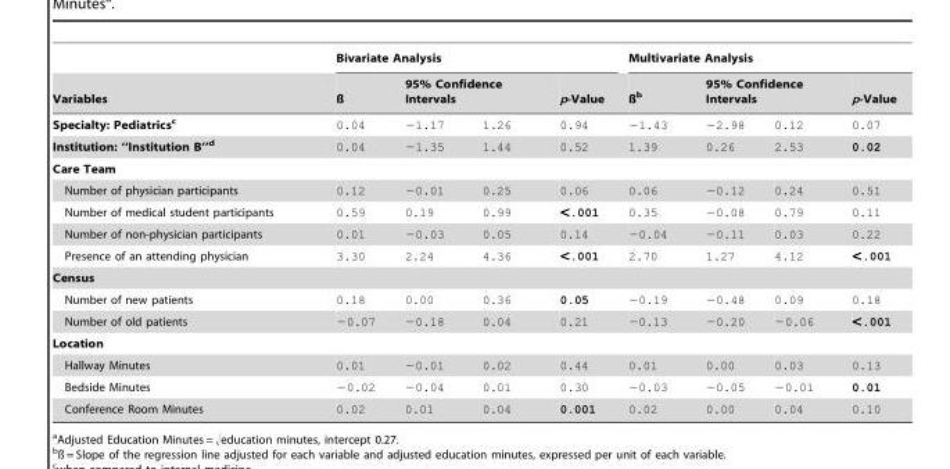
<table><thead><tr><td rowspan="3">Variables Specialty: Pediatricsc</td><td colspan="4">Bivariate Analysis</td><td colspan="4">Multivariate Analysis</td></tr><tr><td rowspan="2">ß 0.04</td><td colspan="2">95% Confidence Intervals</td><td rowspan="2">p-Value 0.94</td><td rowspan="2">ß<sup>b</sup> −1.43</td><td colspan="2">95% Confidence Intervals</td><td rowspan="2">p-Value 0.07</td></tr><tr><td>−1.17</td><td>1.26</td><td>−2.98</td><td>0.12</td></tr></thead><tbody><tr><td>Institution: ‘‘Institution B’’d</td><td>0.04</td><td>−1.35</td><td>1.44</td><td>0.52</td><td>1.39</td><td>0.26</td><td>2.53</td><td>0.02</td></tr><tr><td colspan="9">Care Team</td></tr><tr><td>Number of physician participants</td><td>0.12</td><td>−0.01</td><td>0.25</td><td>0.06</td><td>0.06</td><td>−0.12</td><td>0.24</td><td>0.51</td></tr><tr><td>Number of medical student participants</td><td>0.59</td><td>0.19</td><td>0.99</td><td>&lt;.001</td><td>0.35</td><td>−0.08</td><td>0.79</td><td>0.11</td></tr><tr><td>Number of non-physician participants</td><td>0.01</td><td>−0.03</td><td>0.05</td><td>0.14</td><td>−0.04</td><td>−0.11</td><td>0.03</td><td>0.22</td></tr><tr><td>Presence of an attending physician</td><td>3.30</td><td>2.24</td><td>4.36</td><td>&lt;.001</td><td>2.70</td><td>1.27</td><td>4.12</td><td>&lt;.001</td></tr><tr><td colspan="9">Census</td></tr><tr><td>Number of new patients</td><td>0.18</td><td>0.00</td><td>0.36</td><td>0.05</td><td>−0.19</td><td>−0.48</td><td>0.09</td><td>0.18</td></tr><tr><td>Number of old patients</td><td>−0.07</td><td>−0.18</td><td>0.04</td><td>0.21</td><td>−0.13</td><td>−0.20</td><td>−0.06</td><td>&lt;.001</td></tr><tr><td colspan="9">Location</td></tr><tr><td>Hallway Minutes</td><td>0.01</td><td>−0.01</td><td>0.02</td><td>0.44</td><td>0.01</td><td>0.00</td><td>0.03</td><td>0.13</td></tr><tr><td>Bedside Minutes</td><td>−0.02</td><td>−0.04</td><td>0.01</td><td>0.30</td><td>−0.03</td><td>−0.05</td><td>−0.01</td><td>0.01</td></tr><tr><td>Conference Room Minutes</td><td>0.02</td><td>0.01</td><td>0.04</td><td>0.001</td><td>0.02</td><td>0.00</td><td>0.04</td><td>0.10</td></tr></tbody></table>